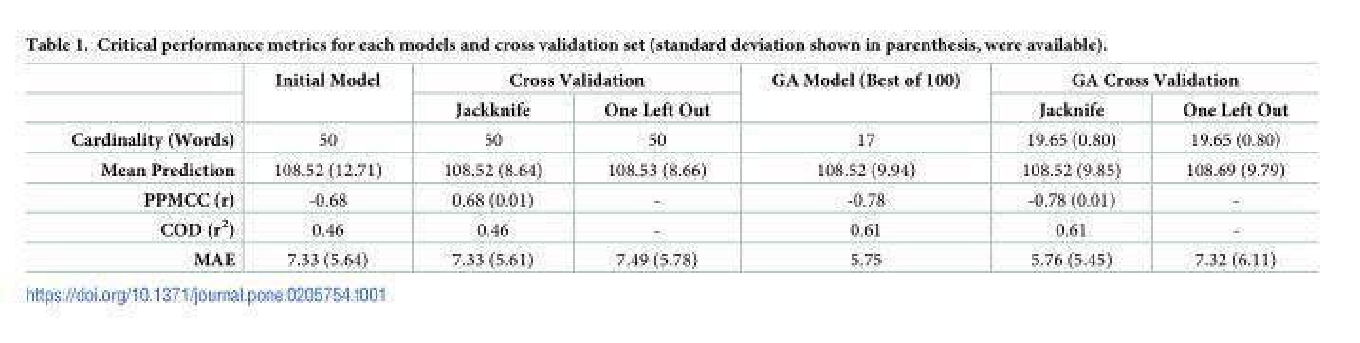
<table><thead><tr><td rowspan="2"></td><td rowspan="2">Initial Model</td><td colspan="2">Cross Validation</td><td rowspan="2">GA Model (Best of 100)</td><td colspan="2">GA Cross Validation</td></tr><tr><td>Jackknife</td><td>One Left Out</td><td>Jacknife</td><td>One Left Out</td></tr></thead><tbody><tr><td>Cardinality (Words)</td><td>50</td><td>50</td><td>50</td><td>17</td><td>19.65 (0.80)</td><td>19.65 (0.80)</td></tr><tr><td>Mean Prediction</td><td>108.52 (12.71)</td><td>108.52 (8.64)</td><td>108.53 (8.66)</td><td>108.52 (9.94)</td><td>108.52 (9.85)</td><td>108.69 (9.79)</td></tr><tr><td>PPMCC (r)</td><td>-0.68</td><td>0.68 (0.01)</td><td>-</td><td>-0.78</td><td>-0.78 (0.01)</td><td>-</td></tr><tr><td>COD (r<sup>2</sup>)</td><td>0.46</td><td>0.46</td><td>-</td><td>0.61</td><td>0.61</td><td>-</td></tr><tr><td>MAE</td><td>7.33 (5.64)</td><td>7.33 (5.61)</td><td>7.49 (5.78)</td><td>5.75</td><td>5.76 (5.45)</td><td>7.32 (6.11)</td></tr></tbody></table>